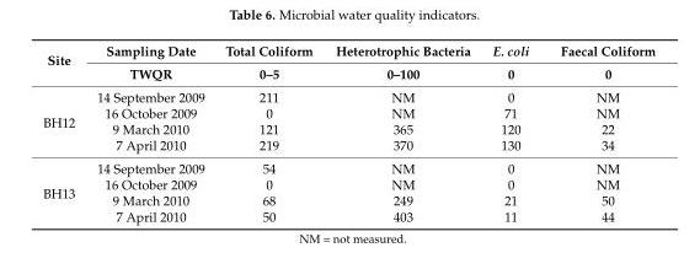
<table><thead><tr><td rowspan="2">Site</td><td rowspan="2">Sampling Date TWQR</td><td rowspan="2">Total Coliform 0–5</td><td rowspan="2">Heterotrophic Bacteria 0–100</td><td rowspan="2">E. coli 0</td><td rowspan="2">Faecal Coliform 0</td></tr><tr></tr></thead><tbody><tr><td rowspan="4">BH12</td><td>14 September 2009</td><td>211</td><td>NM</td><td>0</td><td>NM</td></tr><tr><td>16 October 2009</td><td>0</td><td>NM</td><td>71</td><td>NM</td></tr><tr><td>9 March 2010</td><td>121</td><td>365</td><td>120</td><td>22</td></tr><tr><td>7 April 2010</td><td>219</td><td>370</td><td>130</td><td>34</td></tr><tr><td rowspan="4">BH13</td><td>14 September 2009</td><td>54</td><td>NM</td><td>0</td><td>NM</td></tr><tr><td>16 October 2009</td><td>0</td><td>NM</td><td>0</td><td>NM</td></tr><tr><td>9 March 2010</td><td>68</td><td>249</td><td>21</td><td>50</td></tr><tr><td>7 April 2010</td><td>50</td><td>403</td><td>11</td><td>44</td></tr></tbody></table>